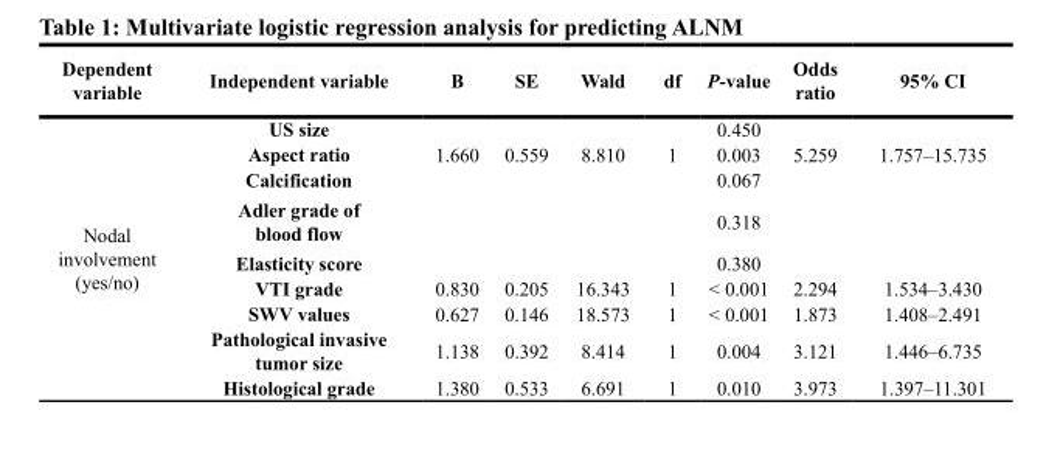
<table><thead><tr><td>Dependent variable</td><td>Independent variable</td><td>B</td><td>SE</td><td>Wald</td><td>df</td><td>P-value</td><td>Odds ratio</td><td>95% CI</td></tr></thead><tbody><tr><td rowspan="9">Nodal involvement (yes/no)</td><td>US size</td><td></td><td></td><td></td><td></td><td>0.450</td><td></td><td></td></tr><tr><td>Aspect ratio</td><td>1.660</td><td>0.559</td><td>8.810</td><td>1</td><td>0.003</td><td>5.259</td><td>1.757–15.735</td></tr><tr><td>Calcification</td><td></td><td></td><td></td><td></td><td>0.067</td><td></td><td></td></tr><tr><td>Adler grade of blood flow</td><td></td><td></td><td></td><td></td><td>0.318</td><td></td><td></td></tr><tr><td>Elasticity score</td><td></td><td></td><td></td><td></td><td>0.380</td><td></td><td></td></tr><tr><td>VTI grade</td><td>0.830</td><td>0.205</td><td>16.343</td><td>1</td><td>&lt; 0.001</td><td>2.294</td><td>1.534–3.430</td></tr><tr><td>SWV values</td><td>0.627</td><td>0.146</td><td>18.573</td><td>1</td><td>&lt; 0.001</td><td>1.873</td><td>1.408–2.491</td></tr><tr><td>Pathological invasive tumor size</td><td>1.138</td><td>0.392</td><td>8.414</td><td>1</td><td>0.004</td><td>3.121</td><td>1.446–6.735</td></tr><tr><td>Histological grade</td><td>1.380</td><td>0.533</td><td>6.691</td><td>1</td><td>0.010</td><td>3.973</td><td>1.397–11.301</td></tr></tbody></table>